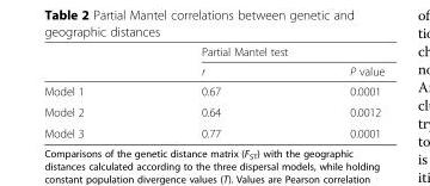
<table><thead><tr><td rowspan="2"></td><td colspan="2">Partial Mantel test</td></tr><tr><td>r</td><td>P value</td></tr></thead><tbody><tr><td>Model 1</td><td>0.67</td><td>0.0001</td></tr><tr><td>Model 2</td><td>0.64</td><td>0.0012</td></tr><tr><td>Model 3</td><td>0.77</td><td>0.0001</td></tr></tbody></table>